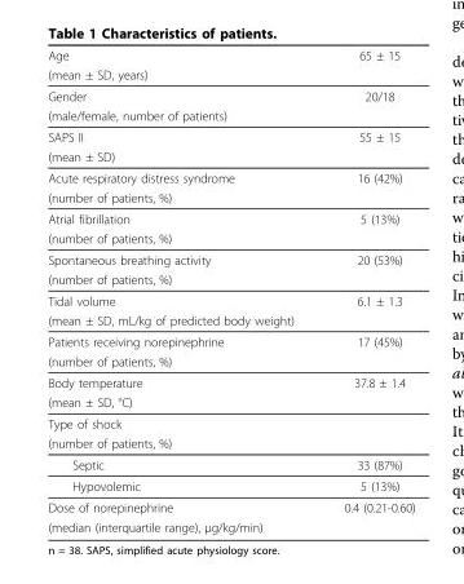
<table><thead><tr><td rowspan="2">Age (mean ± SD, years)</td><td rowspan="2">65 ± 15</td></tr><tr></tr></thead><tbody><tr><td>Gender</td><td>20/18</td></tr><tr><td colspan="2">(male/female, number of patients)</td></tr><tr><td>SAPS II</td><td>55 ± 15</td></tr><tr><td colspan="2">(mean ± SD)</td></tr><tr><td>Acute respiratory distress syndrome</td><td>16 (42%)</td></tr><tr><td colspan="2">(number of patients, %)</td></tr><tr><td>Atrial fibrillation</td><td>5 (13%)</td></tr><tr><td colspan="2">(number of patients, %)</td></tr><tr><td>Spontaneous breathing activity</td><td>20 (53%)</td></tr><tr><td colspan="2">(number of patients, %)</td></tr><tr><td>Tidal volume</td><td>6.1 ± 1.3</td></tr><tr><td colspan="2">(mean ± SD, mL/kg of predicted body weight)</td></tr><tr><td>Patients receiving norepinephrine</td><td>17 (45%)</td></tr><tr><td colspan="2">(number of patients, %)</td></tr><tr><td>Body temperature</td><td>37.8 ± 1.4</td></tr><tr><td colspan="2">(mean ± SD, °C)</td></tr><tr><td colspan="2">Type of shock</td></tr><tr><td colspan="2">(number of patients, %)</td></tr><tr><td>Septic</td><td>33 (87%)</td></tr><tr><td>Hypovolemic</td><td>5 (13%)</td></tr><tr><td>Dose of norepinephrine</td><td>0.4 (0.21-0.60)</td></tr><tr><td>(median (interquartile range), µg/kg/min)</td><td></td></tr></tbody></table>